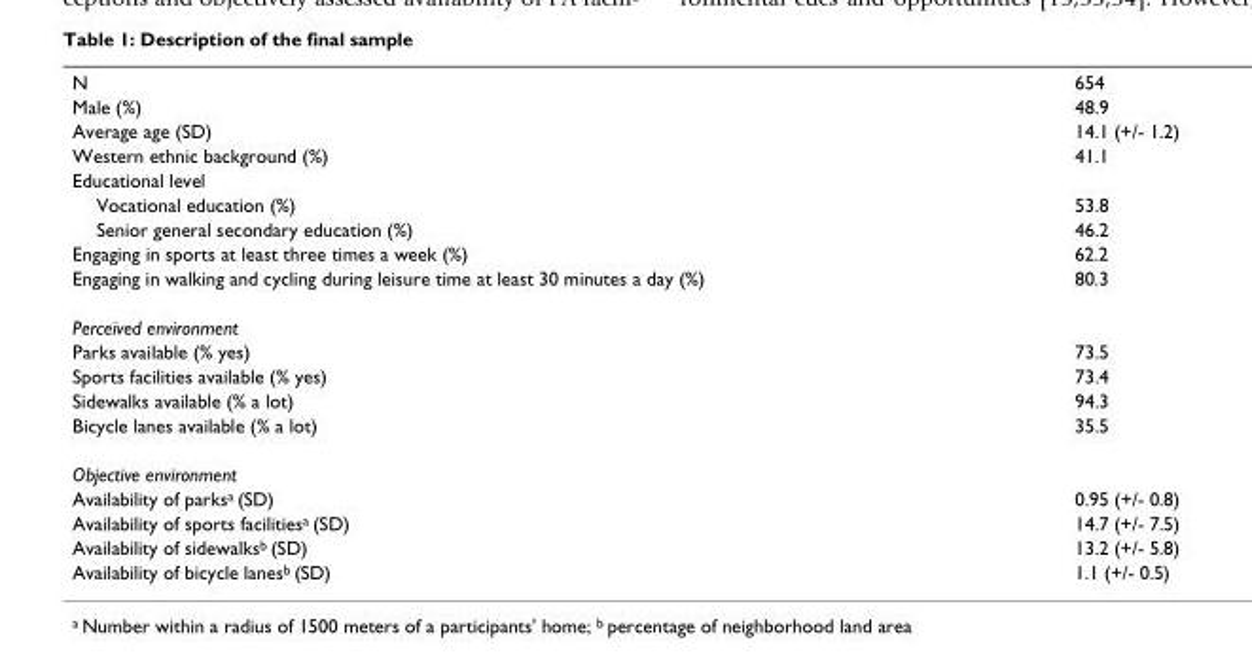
<table><tbody><tr><td>N</td><td>654</td></tr><tr><td>Male (%)</td><td>48.9</td></tr><tr><td>Average age (SD)</td><td>14.1 (+/- 1.2)</td></tr><tr><td>Western ethnic background (%)</td><td>41.1</td></tr><tr><td colspan="2">Educational level</td></tr><tr><td>Vocational education (%)</td><td>53.8</td></tr><tr><td>Senior general secondary education (%)</td><td>46.2</td></tr><tr><td>Engaging in sports at least three times a week (%)</td><td>62.2</td></tr><tr><td>Engaging in walking and cycling during leisure time at least 30 minutes a day (%)</td><td>80.3</td></tr><tr><td colspan="2">Perceived environment</td></tr><tr><td>Parks available (% yes)</td><td>73.5</td></tr><tr><td>Sports facilities available (% yes)</td><td>73.4</td></tr><tr><td>Sidewalks available (% a lot)</td><td>94.3</td></tr><tr><td>Bicycle lanes available (% a lot)</td><td>35.5</td></tr><tr><td colspan="2">Objective environment</td></tr><tr><td>Availability of parks<sup>a</sup> (SD)</td><td>0.95 (+/- 0.8)</td></tr><tr><td>Availability of sports facilities<sup>a</sup> (SD)</td><td>14.7 (+/- 7.5)</td></tr><tr><td>Availability of sidewalks<sup>b</sup> (SD)</td><td>13.2 (+/- 5.8)</td></tr><tr><td>Availability of bicycle lanes<sup>b</sup> (SD)</td><td>1.1 (+/- 0.5)</td></tr></tbody></table>